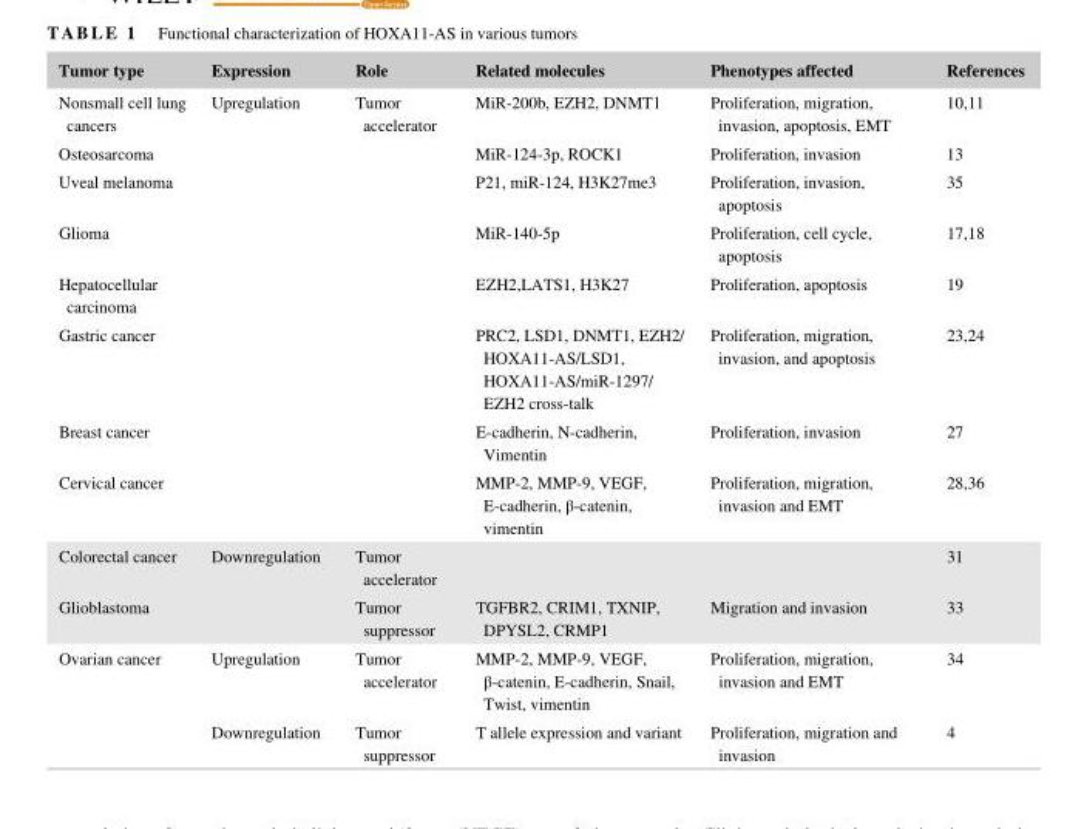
<table><thead><tr><td>Tumor type</td><td>Expression</td><td>Role</td><td>Related molecules</td><td>Phenotypes affected</td><td>References</td></tr></thead><tbody><tr><td>Nonsmall cell lung cancers</td><td rowspan="8">Upregulation</td><td rowspan="8">Tumor accelerator</td><td>MiR- 200b, EZH2, DNMT1</td><td>Proliferation, migration, invasion, apoptosis, EMT</td><td>10,11</td></tr><tr><td>Osteosarcoma</td><td>MiR- 124- 3p, ROCK1</td><td>Proliferation, invasion</td><td>13</td></tr><tr><td>Uveal melanoma</td><td>P21, miR- 124, H3K27me3</td><td>Proliferation, invasion, apoptosis</td><td>35</td></tr><tr><td>Glioma</td><td>MiR- 140- 5p</td><td>Proliferation, cell cycle, apoptosis</td><td>17,18</td></tr><tr><td>Hepatocellular carcinoma</td><td>EZH2,LATS1, H3K27</td><td>Proliferation, apoptosis</td><td>19</td></tr><tr><td>Gastric cancer</td><td>PRC2, LSD1, DNMT1, EZH2/ HOXA11- AS/LSD1, HOXA11- AS/miR- 1297/ EZH2 cross- talk</td><td>Proliferation, migration, invasion, and apoptosis</td><td>23,24</td></tr><tr><td>Breast cancer</td><td>E- cadherin, N- cadherin, Vimentin</td><td>Proliferation, invasion</td><td>27</td></tr><tr><td>Cervical cancer</td><td>MMP- 2, MMP- 9, VEGF, E- cadherin, β- catenin, vimentin</td><td>Proliferation, migration, invasion and EMT</td><td>28,36</td></tr><tr><td>Colorectal cancer</td><td rowspan="2">Downregulation</td><td>Tumor accelerator</td><td></td><td></td><td>31</td></tr><tr><td>Glioblastoma</td><td>Tumor suppressor</td><td>TGFBR2, CRIM1, TXNIP, DPYSL2, CRMP1</td><td>Migration and invasion</td><td>33</td></tr><tr><td rowspan="2">Ovarian cancer</td><td>Upregulation</td><td>Tumor accelerator</td><td>MMP- 2, MMP- 9, VEGF, β- catenin, E- cadherin, Snail, Twist, vimentin</td><td>Proliferation, migration, invasion and EMT</td><td>34</td></tr><tr><td>Downregulation</td><td>Tumor suppressor</td><td>T allele expression and variant</td><td>Proliferation, migration and invasion</td><td>4</td></tr></tbody></table>